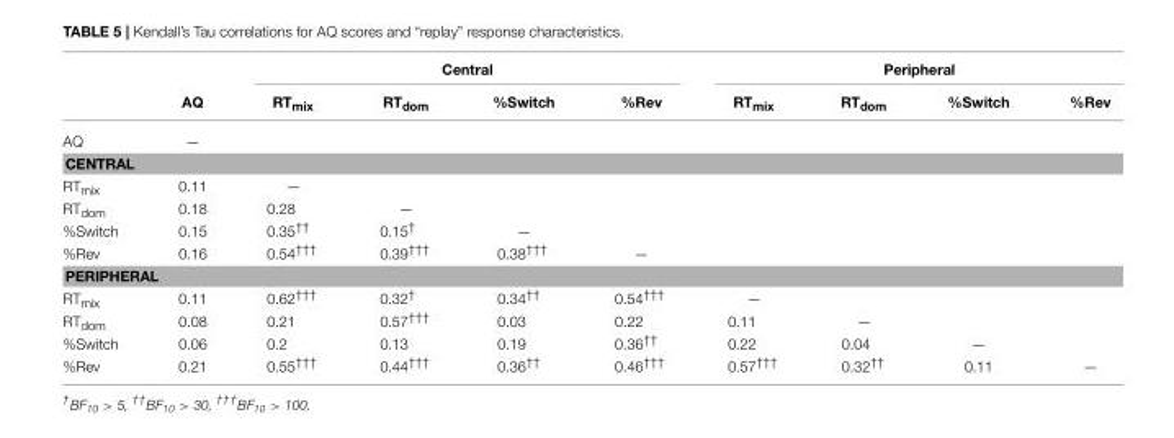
<table><thead><tr><td rowspan="2"></td><td rowspan="2">AQ</td><td colspan="4">Central</td><td colspan="4">Peripheral</td></tr><tr><td>RTmix</td><td>RT<sub>dom</sub></td><td>%Switch</td><td>%Rev</td><td>RT<sub>mix</sub></td><td>RT<sub>dom</sub></td><td>%Switch</td><td>%Rev</td></tr></thead><tbody><tr><td>AQ</td><td>—</td><td></td><td></td><td></td><td></td><td></td><td></td><td></td><td></td></tr><tr><td colspan="10">CENTRAL</td></tr><tr><td>RT<sub>mix</sub></td><td>0.11</td><td>—</td><td></td><td></td><td></td><td></td><td></td><td></td><td></td></tr><tr><td>RT<sub>dom</sub></td><td>0.18</td><td>0.28</td><td>—</td><td></td><td></td><td></td><td></td><td></td><td></td></tr><tr><td>%Switch</td><td>0.15</td><td>0.35<sup>††</sup></td><td>0.15<sup>†</sup></td><td>—</td><td></td><td></td><td></td><td></td><td></td></tr><tr><td>%Rev</td><td>0.16</td><td>0.54<sup>†††</sup></td><td>0.39<sup>†††</sup></td><td>0.38<sup>†††</sup></td><td>—</td><td></td><td></td><td></td><td></td></tr><tr><td colspan="10">PERIPHERAL</td></tr><tr><td>RT<sub>mix</sub></td><td>0.11</td><td>0.62<sup>†††</sup></td><td>0.32<sup>†</sup></td><td>0.34<sup>††</sup></td><td>0.54<sup>†††</sup></td><td>—</td><td></td><td></td><td></td></tr><tr><td>RT<sub>dom</sub></td><td>0.08</td><td>0.21</td><td>0.57<sup>†††</sup></td><td>0.03</td><td>0.22</td><td>0.11</td><td>—</td><td></td><td></td></tr><tr><td>%Switch</td><td>0.06</td><td>0.2</td><td>0.13</td><td>0.19</td><td>0.36<sup>††</sup></td><td>0.22</td><td>0.04</td><td>—</td><td></td></tr><tr><td>%Rev</td><td>0.21</td><td>0.55<sup>†††</sup></td><td>0.44<sup>†††</sup></td><td>0.36<sup>††</sup></td><td>0.46<sup>†††</sup></td><td>0.57<sup>†††</sup></td><td>0.32<sup>††</sup></td><td>0.11</td><td>—</td></tr></tbody></table>